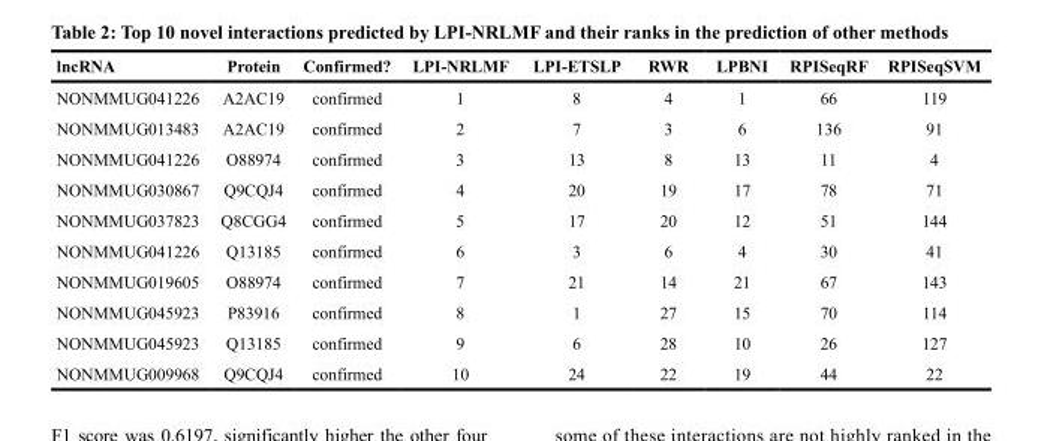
<table><thead><tr><td>lncRNA</td><td>Protein</td><td>Confirmed?</td><td>LPI-NRLMF</td><td>LPI-ETSLP</td><td>RWR</td><td>LPBNI</td><td>RPISeqRF</td><td>RPISeqSVM</td></tr></thead><tbody><tr><td>NONMMUG041226</td><td>A2AC19</td><td>confirmed</td><td>1</td><td>8</td><td>4</td><td>1</td><td>66</td><td>119</td></tr><tr><td>NONMMUG013483</td><td>A2AC19</td><td>confirmed</td><td>2</td><td>7</td><td>3</td><td>6</td><td>136</td><td>91</td></tr><tr><td>NONMMUG041226</td><td>O88974</td><td>confirmed</td><td>3</td><td>13</td><td>8</td><td>13</td><td>11</td><td>4</td></tr><tr><td>NONMMUG030867</td><td>Q9CQJ4</td><td>confirmed</td><td>4</td><td>20</td><td>19</td><td>17</td><td>78</td><td>71</td></tr><tr><td>NONMMUG037823</td><td>Q8CGG4</td><td>confirmed</td><td>5</td><td>17</td><td>20</td><td>12</td><td>51</td><td>144</td></tr><tr><td>NONMMUG041226</td><td>Q13185</td><td>confirmed</td><td>6</td><td>3</td><td>6</td><td>4</td><td>30</td><td>41</td></tr><tr><td>NONMMUG019605</td><td>O88974</td><td>confirmed</td><td>7</td><td>21</td><td>14</td><td>21</td><td>67</td><td>143</td></tr><tr><td>NONMMUG045923</td><td>P83916</td><td>confirmed</td><td>8</td><td>1</td><td>27</td><td>15</td><td>70</td><td>114</td></tr><tr><td>NONMMUG045923</td><td>Q13185</td><td>confirmed</td><td>9</td><td>6</td><td>28</td><td>10</td><td>26</td><td>127</td></tr><tr><td>NONMMUG009968</td><td>Q9CQJ4</td><td>confirmed</td><td>10</td><td>24</td><td>22</td><td>19</td><td>44</td><td>22</td></tr></tbody></table>